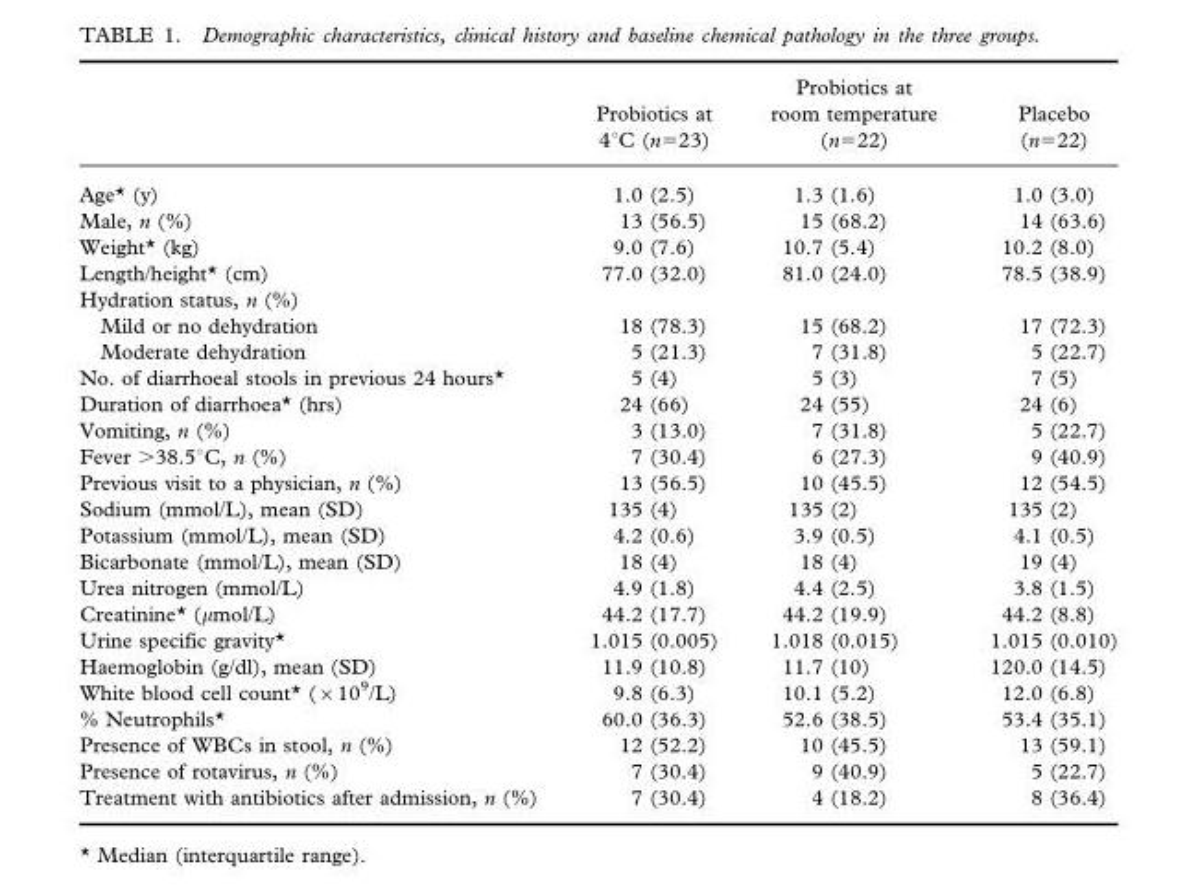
<table><thead><tr><td></td><td>Probiotics at 4°C (n=23)</td><td>Probiotics at room temperature (n=22)</td><td>Placebo (n=22)</td></tr></thead><tbody><tr><td>Age* (y)</td><td>1.0 (2.5)</td><td>1.3 (1.6)</td><td>1.0 (3.0)</td></tr><tr><td>Male, n (%)</td><td>13 (56.5)</td><td>15 (68.2)</td><td>14 (63.6)</td></tr><tr><td>Weight* (kg)</td><td>9.0 (7.6)</td><td>10.7 (5.4)</td><td>10.2 (8.0)</td></tr><tr><td>Length/height* (cm)</td><td>77.0 (32.0)</td><td>81.0 (24.0)</td><td>78.5 (38.9)</td></tr><tr><td colspan="4">Hydration status, n (%)</td></tr><tr><td>Mild or no dehydration</td><td>18 (78.3)</td><td>15 (68.2)</td><td>17 (72.3)</td></tr><tr><td>Moderate dehydration</td><td>5 (21.3)</td><td>7 (31.8)</td><td>5 (22.7)</td></tr><tr><td>No. of diarrhoeal stools in previous 24 hours*</td><td>5 (4)</td><td>5 (3)</td><td>7 (5)</td></tr><tr><td>Duration of diarrhoea* (hrs)</td><td>24 (66)</td><td>24 (55)</td><td>24 (6)</td></tr><tr><td>Vomiting, n (%)</td><td>3 (13.0)</td><td>7 (31.8)</td><td>5 (22.7)</td></tr><tr><td>Fever &gt;38.5°C, n (%)</td><td>7 (30.4)</td><td>6 (27.3)</td><td>9 (40.9)</td></tr><tr><td>Previous visit to a physician, n (%)</td><td>13 (56.5)</td><td>10 (45.5)</td><td>12 (54.5)</td></tr><tr><td>Sodium (mmol/L), mean (SD)</td><td>135 (4)</td><td>135 (2)</td><td>135 (2)</td></tr><tr><td>Potassium (mmol/L), mean (SD)</td><td>4.2 (0.6)</td><td>3.9 (0.5)</td><td>4.1 (0.5)</td></tr><tr><td>Bicarbonate (mmol/L), mean (SD)</td><td>18 (4)</td><td>18 (4)</td><td>19 (4)</td></tr><tr><td>Urea nitrogen (mmol/L)</td><td>4.9 (1.8)</td><td>4.4 (2.5)</td><td>3.8 (1.5)</td></tr><tr><td>Creatinine* (μmol/L)</td><td>44.2 (17.7)</td><td>44.2 (19.9)</td><td>44.2 (8.8)</td></tr><tr><td>Urine specific gravity*</td><td>1.015 (0.005)</td><td>1.018 (0.015)</td><td>1.015 (0.010)</td></tr><tr><td>Haemoglobin (g/dl), mean (SD)</td><td>11.9 (10.8)</td><td>11.7 (10)</td><td>120.0 (14.5)</td></tr><tr><td>White blood cell count* (×10<sup>9</sup>/L)</td><td>9.8 (6.3)</td><td>10.1 (5.2)</td><td>12.0 (6.8)</td></tr><tr><td>% Neutrophils*</td><td>60.0 (36.3)</td><td>52.6 (38.5)</td><td>53.4 (35.1)</td></tr><tr><td>Presence of WBCs in stool, n (%)</td><td>12 (52.2)</td><td>10 (45.5)</td><td>13 (59.1)</td></tr><tr><td>Presence of rotavirus, n (%)</td><td>7 (30.4)</td><td>9 (40.9)</td><td>5 (22.7)</td></tr><tr><td>Treatment with antibiotics after admission, n (%)</td><td>7 (30.4)</td><td>4 (18.2)</td><td>8 (36.4)</td></tr></tbody></table>